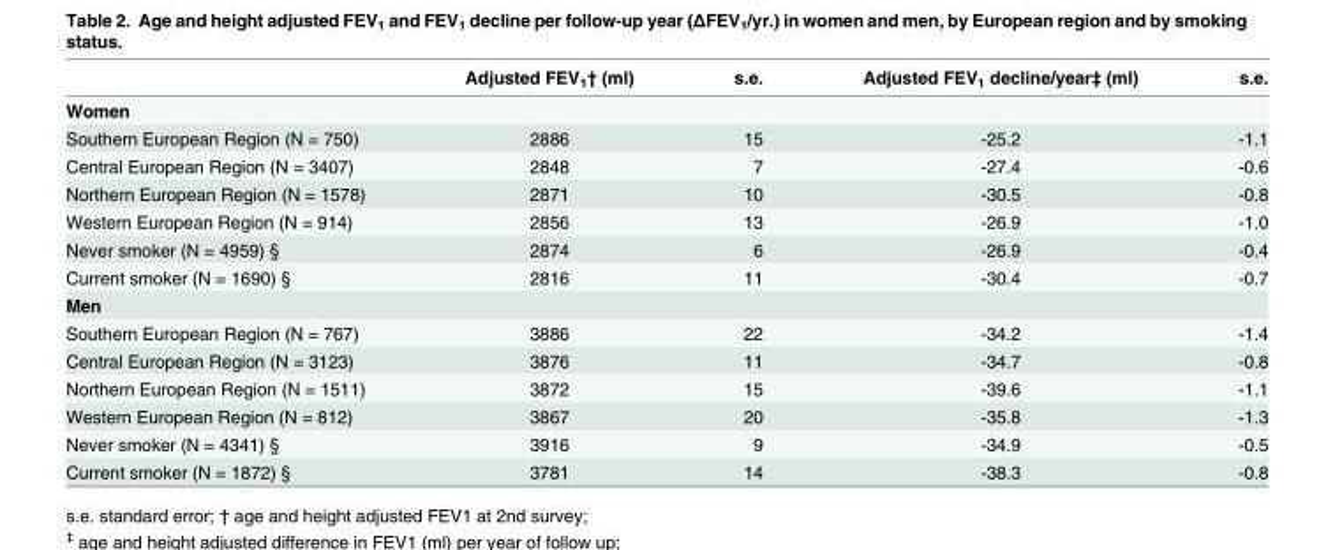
<table><thead><tr><td></td><td>Adjusted FEV<sub>1</sub>† (ml)</td><td>s.e.</td><td>Adjusted FEV<sub>1</sub> decline/year‡ (ml)</td><td>s.e.</td></tr></thead><tbody><tr><td colspan="5">Women</td></tr><tr><td>Southern European Region (N = 750)</td><td>2886</td><td>15</td><td>-25.2</td><td>-1.1</td></tr><tr><td>Central European Region (N = 3407)</td><td>2848</td><td>7</td><td>-27.4</td><td>-0.6</td></tr><tr><td>Northern European Region (N = 1578)</td><td>2871</td><td>10</td><td>-30.5</td><td>-0.8</td></tr><tr><td>Western European Region (N = 914)</td><td>2856</td><td>13</td><td>-26.9</td><td>-1.0</td></tr><tr><td>Never smoker (N = 4959) §</td><td>2874</td><td>6</td><td>-26.9</td><td>-0.4</td></tr><tr><td>Current smoker (N = 1690) §</td><td>2816</td><td>11</td><td>-30.4</td><td>-0.7</td></tr><tr><td colspan="5">Men</td></tr><tr><td>Southern European Region (N = 767)</td><td>3886</td><td>22</td><td>-34.2</td><td>-1.4</td></tr><tr><td>Central European Region (N = 3123)</td><td>3876</td><td>11</td><td>-34.7</td><td>-0.8</td></tr><tr><td>Northern European Region (N = 1511)</td><td>3872</td><td>15</td><td>-39.6</td><td>-1.1</td></tr><tr><td>Western European Region (N = 812)</td><td>3867</td><td>20</td><td>-35.8</td><td>-1.3</td></tr><tr><td>Never smoker (N = 4341) §</td><td>3916</td><td>9</td><td>-34.9</td><td>-0.5</td></tr><tr><td>Current smoker (N = 1872) §</td><td>3781</td><td>14</td><td>-38.3</td><td>-0.8</td></tr></tbody></table>